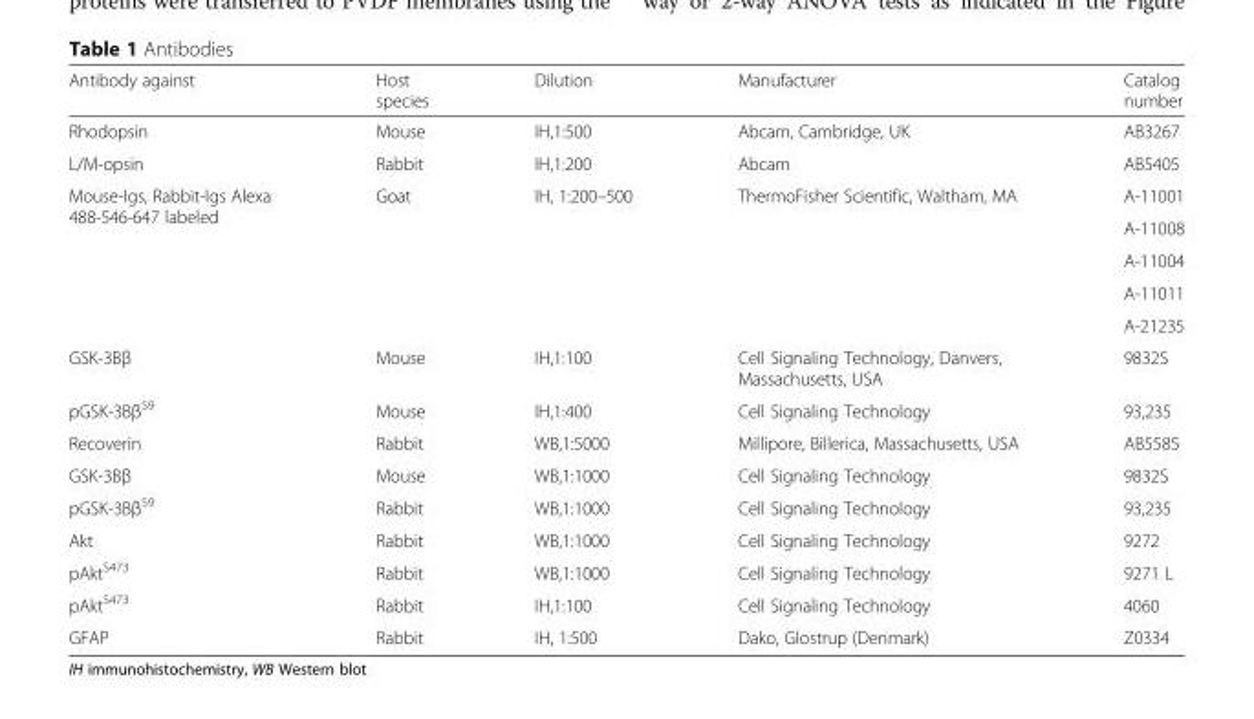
<table><thead><tr><td>Antibody against</td><td>Host species</td><td>Dilution</td><td>Manufacturer</td><td>Catalog number</td></tr></thead><tbody><tr><td>Rhodopsin</td><td>Mouse</td><td>IH,1:500</td><td>Abcam, Cambridge, UK</td><td>AB3267</td></tr><tr><td>L/M-opsin</td><td>Rabbit</td><td>IH,1:200</td><td>Abcam</td><td>AB5405</td></tr><tr><td rowspan="5">Mouse-Igs, Rabbit-Igs Alexa 488-546-647 labeled</td><td rowspan="5">Goat</td><td rowspan="5">IH, 1:200–500</td><td rowspan="5">ThermoFisher Scientific, Waltham, MA</td><td>A-11001</td></tr><tr><td>A-11008</td></tr><tr><td>A-11004</td></tr><tr><td>A-11011</td></tr><tr><td>A-21235</td></tr><tr><td>GSK-3Ββ</td><td>Mouse</td><td>IH,1:100</td><td>Cell Signaling Technology, Danvers, Massachusetts, USA</td><td>9832S</td></tr><tr><td>pGSK-3Ββ<sup>S9</sup></td><td>Mouse</td><td>IH,1:400</td><td>Cell Signaling Technology</td><td>93,235</td></tr><tr><td>Recoverin</td><td>Rabbit</td><td>WB,1:5000</td><td>Millipore, Billerica, Massachusetts, USA</td><td>AB5585</td></tr><tr><td>GSK-3Ββ</td><td>Mouse</td><td>WB,1:1000</td><td>Cell Signaling Technology</td><td>9832S</td></tr><tr><td>pGSK-3Ββ<sup>S9</sup></td><td>Rabbit</td><td>WB,1:1000</td><td>Cell Signaling Technology</td><td>93,235</td></tr><tr><td>Akt</td><td>Rabbit</td><td>WB,1:1000</td><td>Cell Signaling Technology</td><td>9272</td></tr><tr><td>pAkt<sup>S473</sup></td><td>Rabbit</td><td>WB,1:1000</td><td>Cell Signaling Technology</td><td>9271 L</td></tr><tr><td>pAkt<sup>S473</sup></td><td>Rabbit</td><td>IH,1:100</td><td>Cell Signaling Technology</td><td>4060</td></tr><tr><td>GFAP</td><td>Rabbit</td><td>IH, 1:500</td><td>Dako, Glostrup (Denmark)</td><td>Z0334</td></tr></tbody></table>